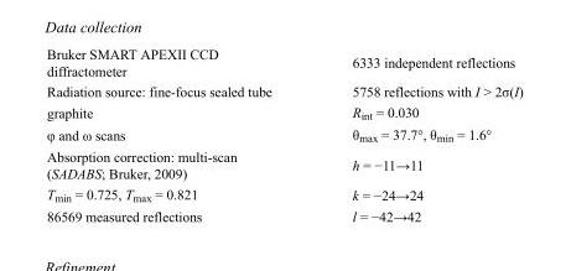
<table><tbody><tr><td>Bruker SMART APEXII CCD diffractometer</td><td>6333 independent reflections</td></tr><tr><td>Radiation source: fine-focus sealed tube</td><td>5758 reflections with I &gt; 2σ(I)</td></tr><tr><td>graphite</td><td>R<sub>int</sub> = 0.030</td></tr><tr><td>φ and ω scans</td><td>θ<sub>max</sub> = 37.7°, θ<sub>min</sub> = 1.6°</td></tr><tr><td>Absorption correction: multi-scan (SADABS; Bruker, 2009)</td><td>h = −11→11</td></tr><tr><td>T<sub>min</sub> = 0.725, T<sub>max</sub> = 0.821</td><td>k = −24→24</td></tr><tr><td>86569 measured reflections</td><td>l = −42→42</td></tr></tbody></table>